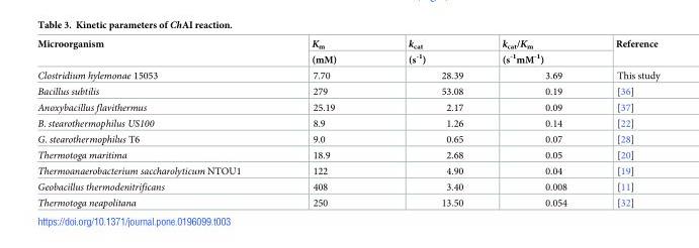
<table><thead><tr><td rowspan="2">Microorganism</td><td rowspan="2">K<sub>m</sub> (mM)</td><td rowspan="2">k<sub>cat</sub> (s<sup>-1</sup>)</td><td rowspan="2">k<sub>cat</sub>/K<sub>m</sub> (s<sup>-1</sup>mM<sup>-1</sup>)</td><td rowspan="2">Reference</td></tr><tr></tr></thead><tbody><tr><td>Clostridium hylemonae 15053</td><td>7.70</td><td>28.39</td><td>3.69</td><td>This study</td></tr><tr><td>Bacillus subtilis</td><td>279</td><td>53.08</td><td>0.19</td><td>[36]</td></tr><tr><td>Anoxybacillus flavithermus</td><td>25.19</td><td>2.17</td><td>0.09</td><td>[37]</td></tr><tr><td>B. stearothermophilus US100</td><td>8.9</td><td>1.26</td><td>0.14</td><td>[22]</td></tr><tr><td>G. stearothermophilus T6</td><td>9.0</td><td>0.65</td><td>0.07</td><td>[28]</td></tr><tr><td>Thermotoga maritima</td><td>18.9</td><td>2.68</td><td>0.05</td><td>[20]</td></tr><tr><td>Thermoanaerobacterium saccharolyticum NTOU1</td><td>122</td><td>4.90</td><td>0.04</td><td>[19]</td></tr><tr><td>Geobacillus thermodenitrificans</td><td>408</td><td>3.40</td><td>0.008</td><td>[11]</td></tr><tr><td>Thermotoga neapolitana</td><td>250</td><td>13.50</td><td>0.054</td><td>[32]</td></tr></tbody></table>